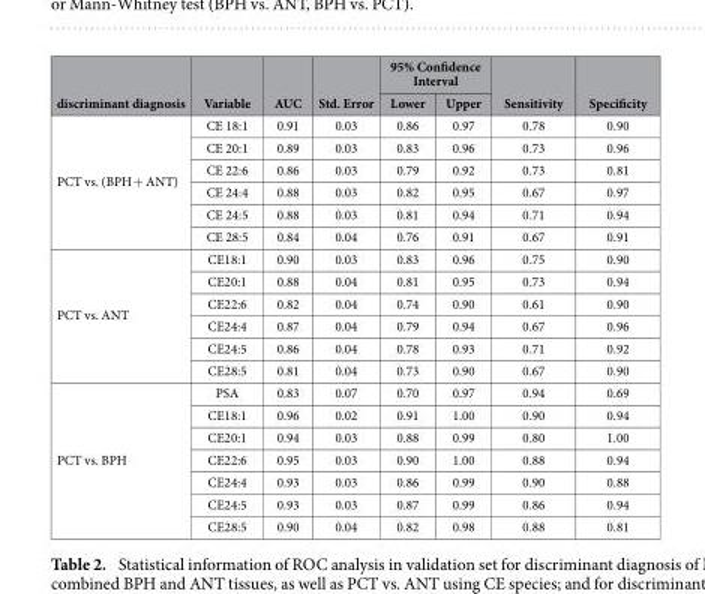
<table><thead><tr><td rowspan="2">discriminant diagnosis</td><td rowspan="2">Variable</td><td rowspan="2">AUC</td><td rowspan="2">Std. Error</td><td colspan="2">95% Confidence Interval</td><td rowspan="2">Sensitivity</td><td rowspan="2">Specificity</td></tr><tr><td>Lower</td><td>Upper</td></tr></thead><tbody><tr><td rowspan="6">PCT vs. (BPH + ANT)</td><td>CE 18:1</td><td>0.91</td><td>0.03</td><td>0.86</td><td>0.97</td><td>0.78</td><td>0.90</td></tr><tr><td>CE 20:1</td><td>0.89</td><td>0.03</td><td>0.83</td><td>0.96</td><td>0.73</td><td>0.96</td></tr><tr><td>CE 22:6</td><td>0.86</td><td>0.03</td><td>0.79</td><td>0.92</td><td>0.73</td><td>0.81</td></tr><tr><td>CE 24:4</td><td>0.88</td><td>0.03</td><td>0.82</td><td>0.95</td><td>0.67</td><td>0.97</td></tr><tr><td>CE 24:5</td><td>0.88</td><td>0.03</td><td>0.81</td><td>0.94</td><td>0.71</td><td>0.94</td></tr><tr><td>CE 28:5</td><td>0.84</td><td>0.04</td><td>0.76</td><td>0.91</td><td>0.67</td><td>0.91</td></tr><tr><td rowspan="6">PCT vs. ANT</td><td>CE18:1</td><td>0.90</td><td>0.03</td><td>0.83</td><td>0.96</td><td>0.75</td><td>0.90</td></tr><tr><td>CE20:1</td><td>0.88</td><td>0.04</td><td>0.81</td><td>0.95</td><td>0.73</td><td>0.94</td></tr><tr><td>CE22:6</td><td>0.82</td><td>0.04</td><td>0.74</td><td>0.90</td><td>0.61</td><td>0.90</td></tr><tr><td>CE24:4</td><td>0.87</td><td>0.04</td><td>0.79</td><td>0.94</td><td>0.67</td><td>0.96</td></tr><tr><td>CE24:5</td><td>0.86</td><td>0.04</td><td>0.78</td><td>0.93</td><td>0.71</td><td>0.92</td></tr><tr><td>CE28:5</td><td>0.81</td><td>0.04</td><td>0.73</td><td>0.90</td><td>0.67</td><td>0.90</td></tr><tr><td rowspan="7">PCT vs. BPH</td><td>PSA</td><td>0.83</td><td>0.07</td><td>0.70</td><td>0.97</td><td>0.94</td><td>0.69</td></tr><tr><td>CE18:1</td><td>0.96</td><td>0.02</td><td>0.91</td><td>1.00</td><td>0.90</td><td>0.94</td></tr><tr><td>CE20:1</td><td>0.94</td><td>0.03</td><td>0.88</td><td>0.99</td><td>0.80</td><td>1.00</td></tr><tr><td>CE22:6</td><td>0.95</td><td>0.03</td><td>0.90</td><td>1.00</td><td>0.88</td><td>0.94</td></tr><tr><td>CE24:4</td><td>0.93</td><td>0.03</td><td>0.86</td><td>0.99</td><td>0.90</td><td>0.88</td></tr><tr><td>CE24:5</td><td>0.93</td><td>0.03</td><td>0.87</td><td>0.99</td><td>0.86</td><td>0.94</td></tr><tr><td>CE28:5</td><td>0.90</td><td>0.04</td><td>0.82</td><td>0.98</td><td>0.88</td><td>0.81</td></tr></tbody></table>